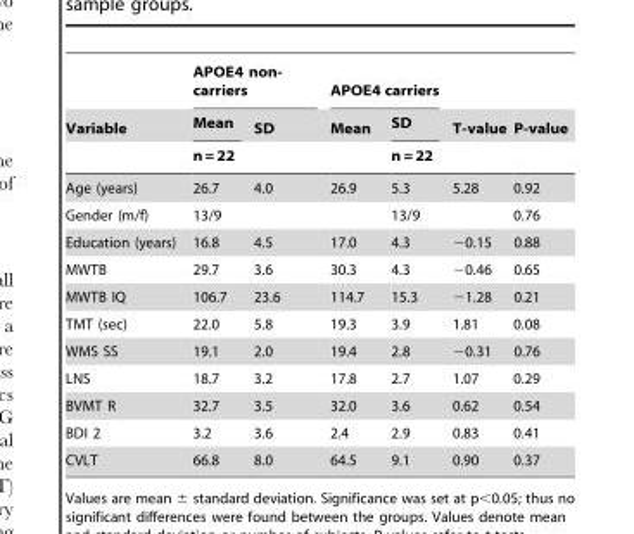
<table><thead><tr><td rowspan="3">Variable</td><td colspan="2">APOE4 non- carriers</td><td colspan="2">APOE4 carriers</td><td rowspan="3">T-value</td><td rowspan="3">P-value</td></tr><tr><td rowspan="2">Mean n = 22</td><td rowspan="2">SD</td><td rowspan="2">Mean</td><td rowspan="2">SD n = 22</td></tr><tr></tr></thead><tbody><tr><td>Age (years)</td><td>26.7</td><td>4.0</td><td>26.9</td><td>5.3</td><td>5.28</td><td>0.92</td></tr><tr><td>Gender (m/f)</td><td>13/9</td><td></td><td></td><td>13/9</td><td></td><td>0.76</td></tr><tr><td>Education (years)</td><td>16.8</td><td>4.5</td><td>17.0</td><td>4.3</td><td>−0.15</td><td>0.88</td></tr><tr><td>MWTB</td><td>29.7</td><td>3.6</td><td>30.3</td><td>4.3</td><td>−0.46</td><td>0.65</td></tr><tr><td>MWTB IQ</td><td>106.7</td><td>23.6</td><td>114.7</td><td>15.3</td><td>−1.28</td><td>0.21</td></tr><tr><td>TMT (sec)</td><td>22.0</td><td>5.8</td><td>19.3</td><td>3.9</td><td>1.81</td><td>0.08</td></tr><tr><td>WMS SS</td><td>19.1</td><td>2.0</td><td>19.4</td><td>2.8</td><td>−0.31</td><td>0.76</td></tr><tr><td>LNS</td><td>18.7</td><td>3.2</td><td>17.8</td><td>2.7</td><td>1.07</td><td>0.29</td></tr><tr><td>BVMT R</td><td>32.7</td><td>3.5</td><td>32.0</td><td>3.6</td><td>0.62</td><td>0.54</td></tr><tr><td>BDI 2</td><td>3.2</td><td>3.6</td><td>2.4</td><td>2.9</td><td>0.83</td><td>0.41</td></tr><tr><td>CVLT</td><td>66.8</td><td>8.0</td><td>64.5</td><td>9.1</td><td>0.90</td><td>0.37</td></tr></tbody></table>